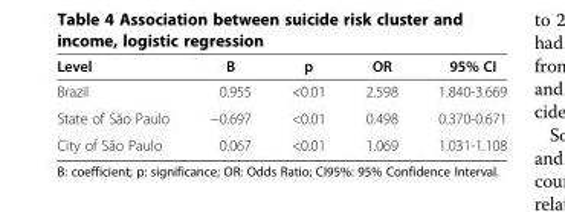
<table><thead><tr><td>Level</td><td>B</td><td>p</td><td>OR</td><td>95% CI</td></tr></thead><tbody><tr><td>Brazil</td><td>0.955</td><td>&lt;0.01</td><td>2.598</td><td>1.840-3.669</td></tr><tr><td>State of São Paulo</td><td>−0.697</td><td>&lt;0.01</td><td>0.498</td><td>0.370-0.671</td></tr><tr><td>City of São Paulo</td><td>0.067</td><td>&lt;0.01</td><td>1.069</td><td>1.031-1.108</td></tr></tbody></table>